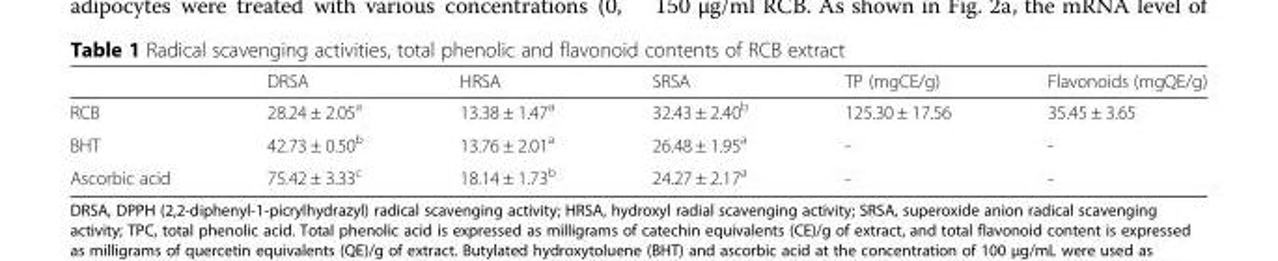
<table><thead><tr><td></td><td>DRSA</td><td>HRSA</td><td>SRSA</td><td>TP (mgCE/g)</td><td>Flavonoids (mgQE/g)</td></tr></thead><tbody><tr><td>RCB</td><td>28.24 ± 2.05<sup>a</sup></td><td>13.38 ± 1.47<sup>a</sup></td><td>32.43 ± 2.40<sup>b</sup></td><td>125.30 ± 17.56</td><td>35.45 ± 3.65</td></tr><tr><td>BHT</td><td>42.73 ± 0.50<sup>b</sup></td><td>13.76 ± 2.01<sup>a</sup></td><td>26.48 ± 1.95<sup>a</sup></td><td>-</td><td>-</td></tr><tr><td>Ascorbic acid</td><td>75.42 ± 3.33<sup>c</sup></td><td>18.14 ± 1.73<sup>b</sup></td><td>24.27 ± 2.17<sup>a</sup></td><td>-</td><td>-</td></tr></tbody></table>